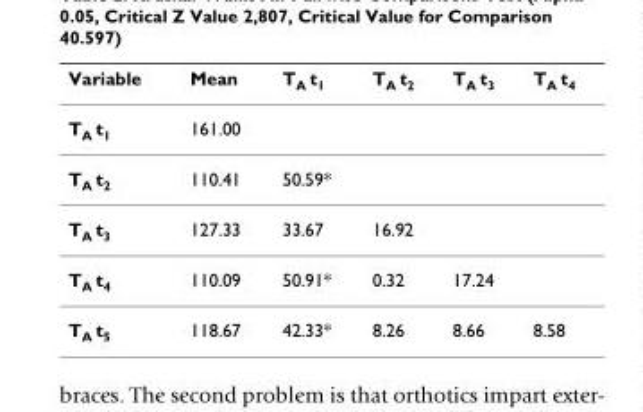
<table><thead><tr><td>Variable</td><td>Mean</td><td>TA t1</td><td>TA t2</td><td>TA t3</td><td>TA t4</td></tr></thead><tbody><tr><td>TA t1</td><td>161.00</td><td></td><td></td><td></td><td></td></tr><tr><td>TA t2</td><td>110.41</td><td>50.59*</td><td></td><td></td><td></td></tr><tr><td>TA t3</td><td>127.33</td><td>33.67</td><td>16.92</td><td></td><td></td></tr><tr><td>TA t4</td><td>110.09</td><td>50.91*</td><td>0.32</td><td>17.24</td><td></td></tr><tr><td>TA t5</td><td>118.67</td><td>42.33*</td><td>8.26</td><td>8.66</td><td>8.58</td></tr></tbody></table>